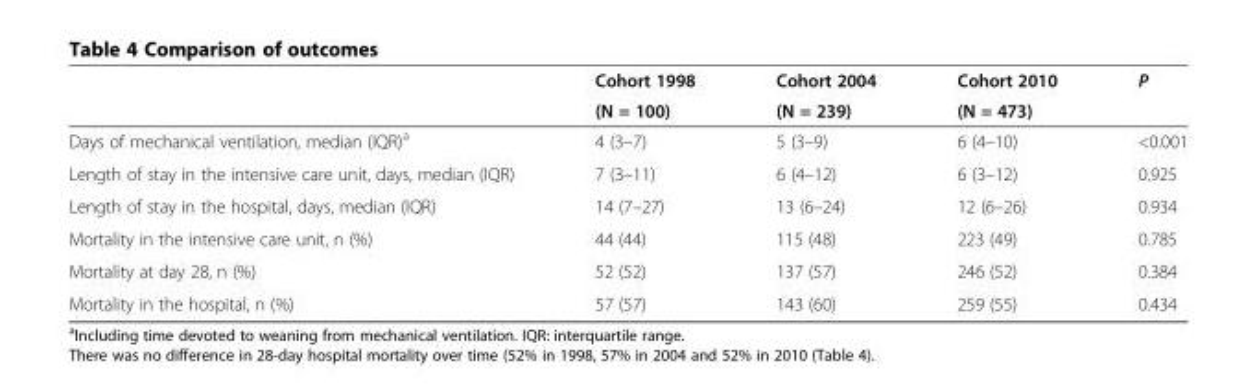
<table><thead><tr><td rowspan="2"></td><td rowspan="2">Cohort 1998 (N = 100)</td><td rowspan="2">Cohort 2004 (N = 239)</td><td rowspan="2">Cohort 2010 (N = 473)</td><td rowspan="2">P</td></tr><tr></tr></thead><tbody><tr><td>Days of mechanical ventilation, median (IQR)<sup>a</sup></td><td>4 (3–7)</td><td>5 (3–9)</td><td>6 (4–10)</td><td>&lt;0.001</td></tr><tr><td>Length of stay in the intensive care unit, days, median (IQR)</td><td>7 (3–11)</td><td>6 (4–12)</td><td>6 (3–12)</td><td>0.925</td></tr><tr><td>Length of stay in the hospital, days, median (IQR)</td><td>14 (7–27)</td><td>13 (6–24)</td><td>12 (6–26)</td><td>0.934</td></tr><tr><td>Mortality in the intensive care unit, n (%)</td><td>44 (44)</td><td>115 (48)</td><td>223 (49)</td><td>0.785</td></tr><tr><td>Mortality at day 28, n (%)</td><td>52 (52)</td><td>137 (57)</td><td>246 (52)</td><td>0.384</td></tr><tr><td>Mortality in the hospital, n (%)</td><td>57 (57)</td><td>143 (60)</td><td>259 (55)</td><td>0.434</td></tr></tbody></table>